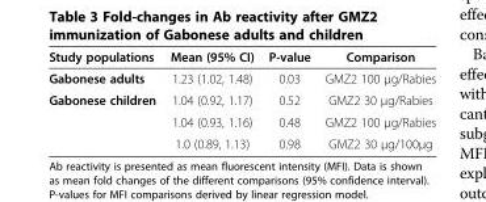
<table><thead><tr><td>Study populations</td><td>Mean (95% CI)</td><td>P-value</td><td>Comparison</td></tr></thead><tbody><tr><td>Gabonese adults</td><td>1.23 (1.02, 1.48)</td><td>0.03</td><td>GMZ2 100 μg/Rabies</td></tr><tr><td rowspan="3">Gabonese children</td><td>1.04 (0.92, 1.17)</td><td>0.52</td><td>GMZ2 30 μg/Rabies</td></tr><tr><td>1.04 (0.93, 1.16)</td><td>0.48</td><td>GMZ2 100 μg/Rabies</td></tr><tr><td>1.0 (0.89, 1.13)</td><td>0.98</td><td>GMZ2 30 μg/100μg</td></tr></tbody></table>